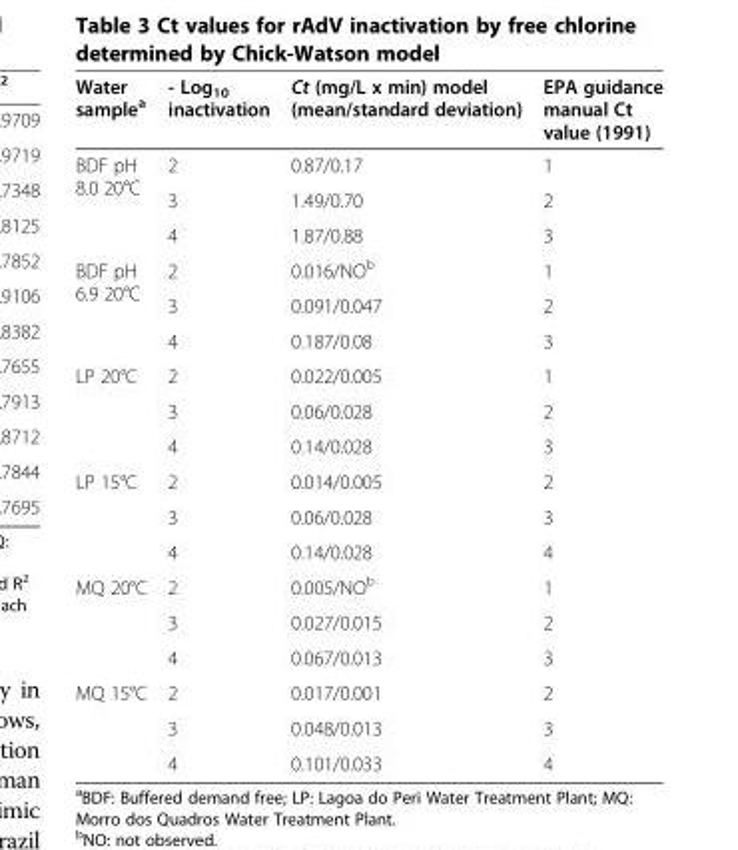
<table><thead><tr><td>Water sample<sup>a</sup></td><td>- Log<sub>10</sub> inactivation</td><td>Ct (mg/L x min) model (mean/standard deviation)</td><td>EPA guidance manual Ct value (1991)</td></tr></thead><tbody><tr><td rowspan="3">BDF pH 8.0 20°C</td><td>2</td><td>0.87/0.17</td><td>1</td></tr><tr><td>3</td><td>1.49/0.70</td><td>2</td></tr><tr><td>4</td><td>1.87/0.88</td><td>3</td></tr><tr><td rowspan="3">BDF pH 6.9 20°C</td><td>2</td><td>0.016/NO<sup>b</sup></td><td>1</td></tr><tr><td>3</td><td>0.091/0.047</td><td>2</td></tr><tr><td>4</td><td>0.187/0.08</td><td>3</td></tr><tr><td rowspan="3">LP 20°C</td><td>2</td><td>0.022/0.005</td><td>1</td></tr><tr><td>3</td><td>0.06/0.028</td><td>2</td></tr><tr><td>4</td><td>0.14/0.028</td><td>3</td></tr><tr><td rowspan="3">LP 15°C</td><td>2</td><td>0.014/0.005</td><td>2</td></tr><tr><td>3</td><td>0.06/0.028</td><td>3</td></tr><tr><td>4</td><td>0.14/0.028</td><td>4</td></tr><tr><td rowspan="3">MQ 20°C</td><td>2</td><td>0.005/NO<sup>b</sup></td><td>1</td></tr><tr><td>3</td><td>0.027/0.015</td><td>2</td></tr><tr><td>4</td><td>0.067/0.013</td><td>3</td></tr><tr><td rowspan="3">MQ 15°C</td><td>2</td><td>0.017/0.001</td><td>2</td></tr><tr><td>3</td><td>0.048/0.013</td><td>3</td></tr><tr><td>4</td><td>0.101/0.033</td><td>4</td></tr></tbody></table>